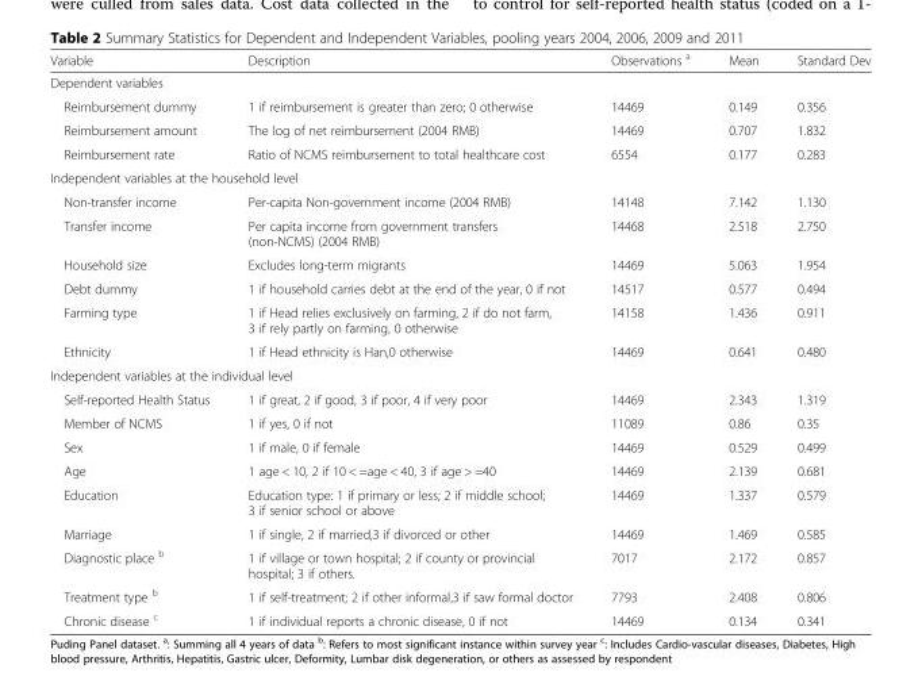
<table><thead><tr><td>Variable</td><td>Description</td><td>Observations <sup>a</sup></td><td>Mean</td><td>Standard Dev</td></tr></thead><tbody><tr><td colspan="5">Dependent variables</td></tr><tr><td>Reimbursement dummy</td><td>1 if reimbursement is greater than zero; 0 otherwise</td><td>14469</td><td>0.149</td><td>0.356</td></tr><tr><td>Reimbursement amount</td><td>The log of net reimbursement (2004 RMB)</td><td>14469</td><td>0.707</td><td>1.832</td></tr><tr><td>Reimbursement rate</td><td>Ratio of NCMS reimbursement to total healthcare cost</td><td>6554</td><td>0.177</td><td>0.283</td></tr><tr><td colspan="5">Independent variables at the household level</td></tr><tr><td>Non-transfer income</td><td>Per-capita Non-government income (2004 RMB)</td><td>14148</td><td>7.142</td><td>1.130</td></tr><tr><td>Transfer income</td><td>Per capita income from government transfers (non-NCMS) (2004 RMB)</td><td>14468</td><td>2.518</td><td>2.750</td></tr><tr><td>Household size</td><td>Excludes long-term migrants</td><td>14469</td><td>5.063</td><td>1.954</td></tr><tr><td>Debt dummy</td><td>1 if household carries debt at the end of the year, 0 if not</td><td>14517</td><td>0.577</td><td>0.494</td></tr><tr><td>Farming type</td><td>1 if Head relies exclusively on farming, 2 if do not farm, 3 if rely partly on farming, 0 otherwise</td><td>14158</td><td>1.436</td><td>0.911</td></tr><tr><td>Ethnicity</td><td>1 if Head ethnicity is Han,0 otherwise</td><td>14469</td><td>0.641</td><td>0.480</td></tr><tr><td colspan="5">Independent variables at the individual level</td></tr><tr><td>Self-reported Health Status</td><td>1 if great, 2 if good, 3 if poor, 4 if very poor</td><td>14469</td><td>2.343</td><td>1.319</td></tr><tr><td>Member of NCMS</td><td>1 if yes, 0 if not</td><td>11089</td><td>0.86</td><td>0.35</td></tr><tr><td>Sex</td><td>1 if male, 0 if female</td><td>14469</td><td>0.529</td><td>0.499</td></tr><tr><td>Age</td><td>1 age &lt; 10, 2 if 10 &lt; =age &lt; 40, 3 if age &gt; =40</td><td>14469</td><td>2.139</td><td>0.681</td></tr><tr><td>Education</td><td>Education type: 1 if primary or less; 2 if middle school; 3 if senior school or above</td><td>14469</td><td>1.337</td><td>0.579</td></tr><tr><td>Marriage</td><td>1 if single, 2 if married,3 if divorced or other</td><td>14469</td><td>1.469</td><td>0.585</td></tr><tr><td>Diagnostic place <sup>b</sup></td><td>1 if village or town hospital; 2 if county or provincial hospital; 3 if others.</td><td>7017</td><td>2.172</td><td>0.857</td></tr><tr><td>Treatment type <sup>b</sup></td><td>1 if self-treatment; 2 if other informal,3 if saw formal doctor</td><td>7793</td><td>2.408</td><td>0.806</td></tr><tr><td>Chronic disease <sup>c</sup></td><td>1 if individual reports a chronic disease, 0 if not</td><td>14469</td><td>0.134</td><td>0.341</td></tr></tbody></table>